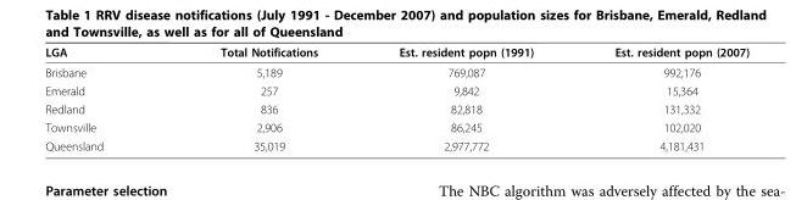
<table><thead><tr><td>LGA</td><td>Total Notifications</td><td>Est. resident popn (1991)</td><td>Est. resident popn (2007)</td></tr></thead><tbody><tr><td>Brisbane</td><td>5,189</td><td>769,087</td><td>992,176</td></tr><tr><td>Emerald</td><td>257</td><td>9,842</td><td>15,364</td></tr><tr><td>Redland</td><td>836</td><td>82,818</td><td>131,332</td></tr><tr><td>Townsville</td><td>2,906</td><td>86,245</td><td>102,020</td></tr><tr><td>Queensland</td><td>35,019</td><td>2,977,772</td><td>4,181,431</td></tr></tbody></table>